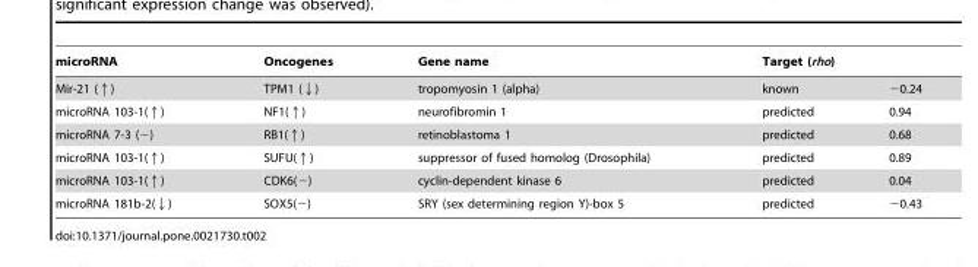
<table><thead><tr><td rowspan="2">microRNA Mir-21 (↑)</td><td rowspan="2">Oncogenes TPM1 (↓)</td><td rowspan="2">Gene name tropomyosin 1 (alpha)</td><td colspan="2">Target (rho)</td></tr><tr><td>known</td><td>−0.24</td></tr></thead><tbody><tr><td>microRNA 103-1(↑)</td><td>NF1(↑)</td><td>neurofibromin 1</td><td>predicted</td><td>0.94</td></tr><tr><td>microRNA 7-3 (−)</td><td>RB1(↑)</td><td>retinoblastoma 1</td><td>predicted</td><td>0.68</td></tr><tr><td>microRNA 103-1(↑)</td><td>SUFU(↑)</td><td>suppressor of fused homolog (Drosophila)</td><td>predicted</td><td>0.89</td></tr><tr><td>microRNA 103-1(↑)</td><td>CDK6(−)</td><td>cyclin-dependent kinase 6</td><td>predicted</td><td>0.04</td></tr><tr><td>microRNA 181b-2(↓)</td><td>SOX5(−)</td><td>SRY (sex determining region Y)-box 5</td><td>predicted</td><td>−0.43</td></tr></tbody></table>